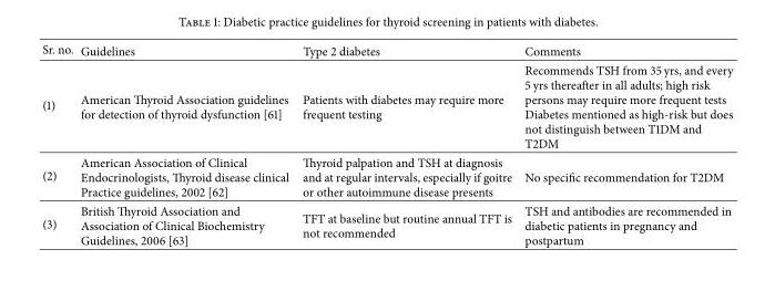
<table><thead><tr><td>Sr. no.</td><td>Guidelines</td><td>Type 2 diabetes</td><td>Comments</td></tr></thead><tbody><tr><td>(1)</td><td>American Thyroid Association guidelines for detection of thyroid dysfunction [61]</td><td>Patients with diabetes may require more frequent testing</td><td>Recommends TSH from 35 yrs, and every 5 yrs thereafter in all adults; high risk persons may require more frequent tests Diabetes mentioned as high-risk but does not distinguish between T1DM and T2DM</td></tr><tr><td>(2)</td><td>American Association of Clinical Endocrinologists, Thyroid disease clinical Practice guidelines, 2002 [62]</td><td>Thyroid palpation and TSH at diagnosis and at regular intervals, especially if goitre or other autoimmune disease presents</td><td>No specific recommendation for T2DM</td></tr><tr><td>(3)</td><td>British Thyroid Association and Association of Clinical Biochemistry Guidelines, 2006 [63]</td><td>TFT at baseline but routine annual TFT is not recommended</td><td>TSH and antibodies are recommended in diabetic patients in pregnancy and postpartum</td></tr></tbody></table>